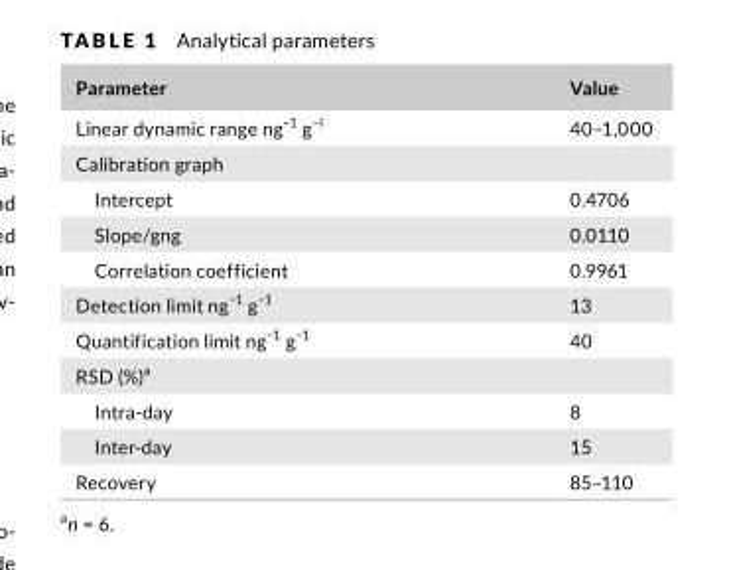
<table><thead><tr><td>Parameter</td><td>Value</td></tr></thead><tbody><tr><td>Linear dynamic range ng<sup>−1</sup> g<sup>−l</sup></td><td>40–1,000</td></tr><tr><td colspan="2">Calibration graph</td></tr><tr><td>Intercept</td><td>0.4706</td></tr><tr><td>Slope/gng</td><td>0.0110</td></tr><tr><td>Correlation coefficient</td><td>0.9961</td></tr><tr><td>Detection limit ng<sup>−1</sup> g<sup>−1</sup></td><td>13</td></tr><tr><td>Quantification limit ng<sup>−1</sup> g<sup>−1</sup></td><td>40</td></tr><tr><td colspan="2">RSD (%)<sup>a</sup></td></tr><tr><td>Intra- day</td><td>8</td></tr><tr><td>Inter- day</td><td>15</td></tr><tr><td>Recovery</td><td>85–110</td></tr></tbody></table>